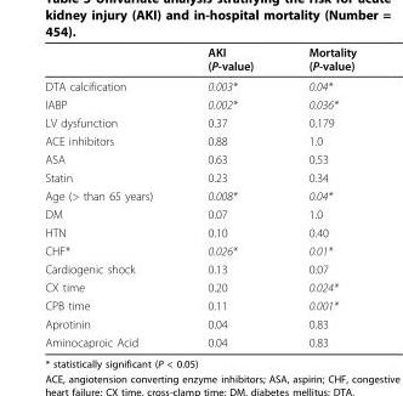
<table><thead><tr><td></td><td>AKI (P-value)</td><td>Mortality (P-value)</td></tr></thead><tbody><tr><td>DTA calcification</td><td>0.003*</td><td>0.04*</td></tr><tr><td>IABP</td><td>0.002*</td><td>0.036*</td></tr><tr><td>LV dysfunction</td><td>0.37</td><td>0.179</td></tr><tr><td>ACE inhibitors</td><td>0.88</td><td>1.0</td></tr><tr><td>ASA</td><td>0.63</td><td>0.53</td></tr><tr><td>Statin</td><td>0.23</td><td>0.34</td></tr><tr><td>Age (&gt; than 65 years)</td><td>0.008*</td><td>0.04*</td></tr><tr><td>DM</td><td>0.07</td><td>1.0</td></tr><tr><td>HTN</td><td>0.10</td><td>0.40</td></tr><tr><td>CHF*</td><td>0.026*</td><td>0.01*</td></tr><tr><td>Cardiogenic shock</td><td>0.13</td><td>0.07</td></tr><tr><td>CX time</td><td>0.20</td><td>0.024*</td></tr><tr><td>CPB time</td><td>0.11</td><td>0.001*</td></tr><tr><td>Aprotinin</td><td>0.04</td><td>0.83</td></tr><tr><td>Aminocaproic Acid</td><td>0.04</td><td>0.83</td></tr></tbody></table>